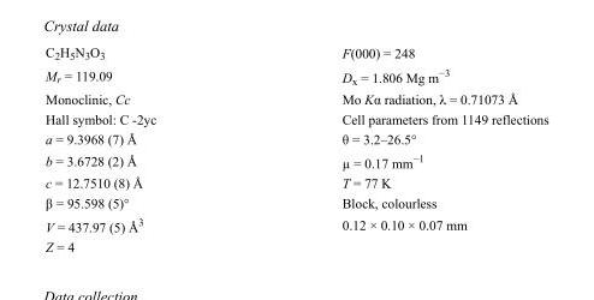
<table><tbody><tr><td>C<sub>2</sub>H<sub>5</sub>N<sub>3</sub>O<sub>3</sub></td><td>F(000) = 248</td></tr><tr><td>M<sub>r</sub> = 119.09</td><td>D<sub>x</sub> = 1.806 Mg m<sup>−3</sup></td></tr><tr><td>Monoclinic, Cc</td><td>Mo Kα radiation, λ = 0.71073 Å</td></tr><tr><td>Hall symbol: C -2yc</td><td>Cell parameters from 1149 reflections</td></tr><tr><td>a = 9.3968 (7) Å</td><td>θ = 3.2–26.5°</td></tr><tr><td>b = 3.6728 (2) Å</td><td>µ = 0.17 mm<sup>−1</sup></td></tr><tr><td>c = 12.7510 (8) Å</td><td>T = 77 K</td></tr><tr><td>β = 95.598 (5)°</td><td>Block, colourless</td></tr><tr><td>V = 437.97 (5) Å<sup>3</sup></td><td>0.12 × 0.10 × 0.07 mm</td></tr><tr><td>Z = 4</td><td></td></tr></tbody></table>